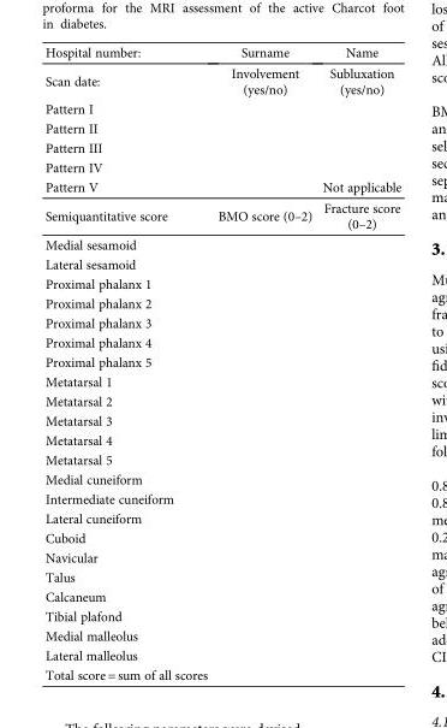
<table><thead><tr><td>Hospital number:</td><td>Surname</td><td>Name</td></tr></thead><tbody><tr><td>Scan date:</td><td>Involvement (yes/no)</td><td>Subluxation (yes/no)</td></tr><tr><td colspan="3">Pattern I</td></tr><tr><td colspan="3">Pattern II</td></tr><tr><td colspan="3">Pattern III</td></tr><tr><td colspan="3">Pattern IV</td></tr><tr><td>Pattern V</td><td></td><td>Not applicable</td></tr><tr><td>Semiquantitative score</td><td>BMO score (0–2)</td><td>Fracture score (0–2)</td></tr><tr><td colspan="3">Medial sesamoid</td></tr><tr><td colspan="3">Lateral sesamoid</td></tr><tr><td colspan="3">Proximal phalanx 1</td></tr><tr><td colspan="3">Proximal phalanx 2</td></tr><tr><td colspan="3">Proximal phalanx 3</td></tr><tr><td colspan="3">Proximal phalanx 4</td></tr><tr><td colspan="3">Proximal phalanx 5</td></tr><tr><td colspan="3">Metatarsal 1</td></tr><tr><td colspan="3">Metatarsal 2</td></tr><tr><td colspan="3">Metatarsal 3</td></tr><tr><td colspan="3">Metatarsal 4</td></tr><tr><td colspan="3">Metatarsal 5</td></tr><tr><td colspan="3">Medial cuneiform</td></tr><tr><td colspan="3">Intermediate cuneiform</td></tr><tr><td colspan="3">Lateral cuneiform</td></tr><tr><td colspan="3">Cuboid</td></tr><tr><td colspan="3">Navicular</td></tr><tr><td colspan="3">Talus</td></tr><tr><td colspan="3">Calcaneum</td></tr><tr><td colspan="3">Tibial plafond</td></tr><tr><td colspan="3">Medial malleolus</td></tr><tr><td colspan="3">Lateral malleolus</td></tr><tr><td>Total score = sum of all scores</td><td></td><td></td></tr></tbody></table>